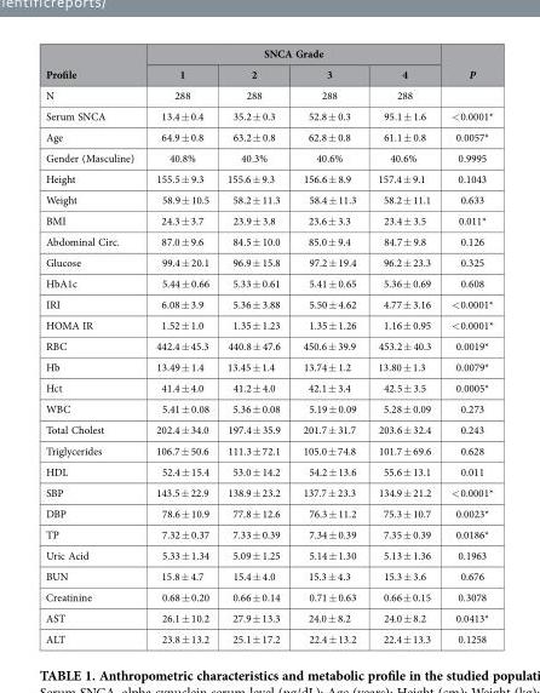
<table><thead><tr><td rowspan="2">Profile</td><td colspan="4">SNCA Grade</td><td rowspan="2">P</td></tr><tr><td>1</td><td>2</td><td>3</td><td>4</td></tr></thead><tbody><tr><td>N</td><td>288</td><td>288</td><td>288</td><td>288</td><td></td></tr><tr><td>Serum SNCA</td><td>13.4 ± 0.4</td><td>35.2 ± 0.3</td><td>52.8 ± 0.3</td><td>95.1 ± 1.6</td><td>&lt; 0.0001*</td></tr><tr><td>Age</td><td>64.9 ± 0.8</td><td>63.2 ± 0.8</td><td>62.8 ± 0.8</td><td>61.1 ± 0.8</td><td>0.0057*</td></tr><tr><td>Gender (Masculine)</td><td>40.8%</td><td>40.3%</td><td>40.6%</td><td>40.6%</td><td>0.9995</td></tr><tr><td>Height</td><td>155.5 ± 9.3</td><td>155.6 ± 9.3</td><td>156.6 ± 8.9</td><td>157.4 ± 9.1</td><td>0.1043</td></tr><tr><td>Weight</td><td>58.9 ± 10.5</td><td>58.2 ± 11.3</td><td>58.4 ± 11.3</td><td>58.2 ± 11.1</td><td>0.633</td></tr><tr><td>BMI</td><td>24.3 ± 3.7</td><td>23.9 ± 3.8</td><td>23.6 ± 3.3</td><td>23.4 ± 3.5</td><td>0.011*</td></tr><tr><td>Abdominal Circ.</td><td>87.0 ± 9.6</td><td>84.5 ± 10.0</td><td>85.0 ± 9.4</td><td>84.7 ± 9.8</td><td>0.126</td></tr><tr><td>Glucose</td><td>99.4 ± 20.1</td><td>96.9 ± 15.8</td><td>97.2 ± 19.4</td><td>96.2 ± 23.3</td><td>0.325</td></tr><tr><td>HbA1c</td><td>5.44 ± 0.66</td><td>5.33 ± 0.61</td><td>5.41 ± 0.65</td><td>5.36 ± 0.69</td><td>0.608</td></tr><tr><td>IRI</td><td>6.08 ± 3.9</td><td>5.36 ± 3.88</td><td>5.50 ± 4.62</td><td>4.77 ± 3.16</td><td>&lt; 0.0001*</td></tr><tr><td>HOMA IR</td><td>1.52 ± 1.0</td><td>1.35 ± 1.23</td><td>1.35 ± 1.26</td><td>1.16 ± 0.95</td><td>&lt; 0.0001*</td></tr><tr><td>RBC</td><td>442.4 ± 45.3</td><td>440.8 ± 47.6</td><td>450.6 ± 39.9</td><td>453.2 ± 40.3</td><td>0.0019*</td></tr><tr><td>Hb</td><td>13.49 ± 1.4</td><td>13.45 ± 1.4</td><td>13.74 ± 1.2</td><td>13.80 ± 1.3</td><td>0.0079*</td></tr><tr><td>Hct</td><td>41.4 ± 4.0</td><td>41.2 ± 4.0</td><td>42.1 ± 3.4</td><td>42.5 ± 3.5</td><td>0.0005*</td></tr><tr><td>WBC</td><td>5.41 ± 0.08</td><td>5.36 ± 0.08</td><td>5.19 ± 0.09</td><td>5.28 ± 0.09</td><td>0.273</td></tr><tr><td>Total Cholest</td><td>202.4 ± 34.0</td><td>197.4 ± 35.9</td><td>201.7 ± 31.7</td><td>203.6 ± 32.4</td><td>0.243</td></tr><tr><td>Triglycerides</td><td>106.7 ± 50.6</td><td>111.3 ± 72.1</td><td>105.0 ± 74.8</td><td>101.7 ± 69.6</td><td>0.628</td></tr><tr><td>HDL</td><td>52.4 ± 15.4</td><td>53.0 ± 14.2</td><td>54.2 ± 13.6</td><td>55.6 ± 13.1</td><td>0.011</td></tr><tr><td>SBP</td><td>143.5 ± 22.9</td><td>138.9 ± 23.2</td><td>137.7 ± 23.3</td><td>134.9 ± 21.2</td><td>&lt; 0.0001*</td></tr><tr><td>DBP</td><td>78.6 ± 10.9</td><td>77.8 ± 12.6</td><td>76.3 ± 11.2</td><td>75.3 ± 10.7</td><td>0.0023*</td></tr><tr><td>TP</td><td>7.32 ± 0.37</td><td>7.33 ± 0.39</td><td>7.34 ± 0.39</td><td>7.35 ± 0.39</td><td>0.0186*</td></tr><tr><td>Uric Acid</td><td>5.33 ± 1.34</td><td>5.09 ± 1.25</td><td>5.14 ± 1.30</td><td>5.13 ± 1.36</td><td>0.1963</td></tr><tr><td>BUN</td><td>15.8 ± 4.7</td><td>15.4 ± 4.0</td><td>15.3 ± 4.3</td><td>15.3 ± 3.6</td><td>0.676</td></tr><tr><td>Creatinine</td><td>0.68 ± 0.20</td><td>0.66 ± 0.14</td><td>0.71 ± 0.63</td><td>0.66 ± 0.15</td><td>0.3078</td></tr><tr><td>AST</td><td>26.1 ± 10.2</td><td>27.9 ± 13.3</td><td>24.0 ± 8.2</td><td>24.0 ± 8.2</td><td>0.0413*</td></tr><tr><td>ALT</td><td>23.8 ± 13.2</td><td>25.1 ± 17.2</td><td>22.4 ± 13.2</td><td>22.4 ± 13.3</td><td>0.1258</td></tr></tbody></table>